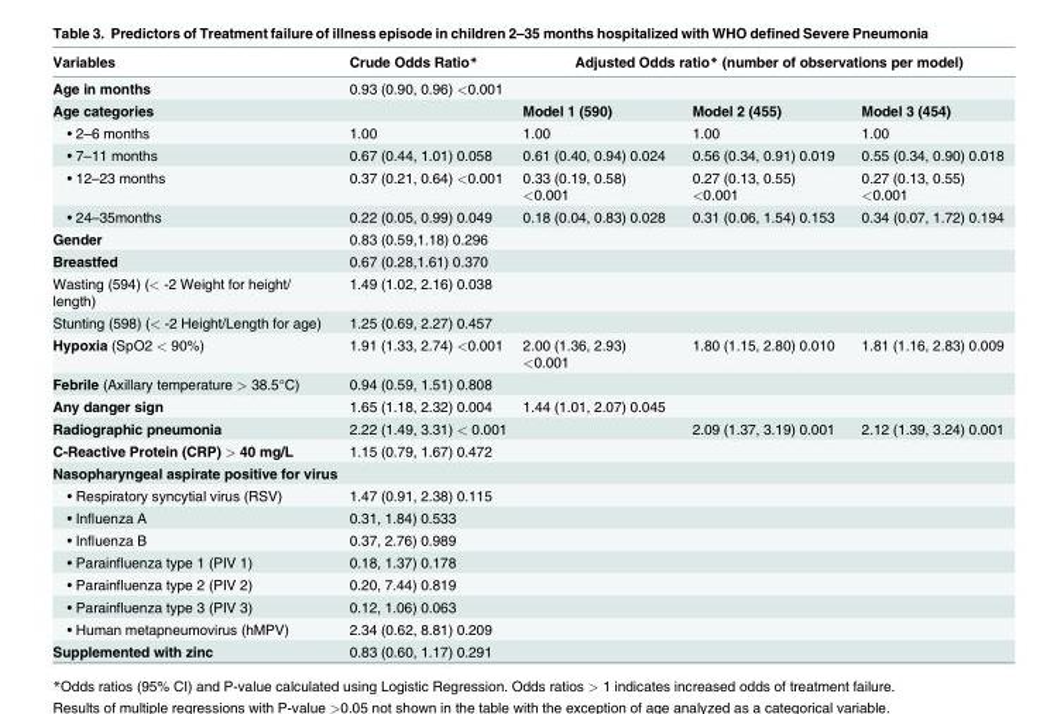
<table><thead><tr><td rowspan="3">Variables Age in months Age categories</td><td rowspan="3">Crude Odds Ratio* 0.93 (0.90, 0.96) &lt;0.001</td><td rowspan="2" colspan="3">Adjusted Odds ratio* (number of observations per model)</td></tr><tr></tr><tr><td>Model 1 (590)</td><td>Model 2 (455)</td><td>Model 3 (454)</td></tr></thead><tbody><tr><td>• 2–6 months</td><td>1.00</td><td>1.00</td><td>1.00</td><td>1.00</td></tr><tr><td>• 7–11 months</td><td>0.67 (0.44, 1.01) 0.058</td><td>0.61 (0.40, 0.94) 0.024</td><td>0.56 (0.34, 0.91) 0.019</td><td>0.55 (0.34, 0.90) 0.018</td></tr><tr><td>• 12–23 months</td><td>0.37 (0.21, 0.64) &lt;0.001</td><td>0.33 (0.19, 0.58) &lt;0.001</td><td>0.27 (0.13, 0.55) &lt;0.001</td><td>0.27 (0.13, 0.55) &lt;0.001</td></tr><tr><td>• 24–35months</td><td>0.22 (0.05, 0.99) 0.049</td><td>0.18 (0.04, 0.83) 0.028</td><td>0.31 (0.06, 1.54) 0.153</td><td>0.34 (0.07, 1.72) 0.194</td></tr><tr><td>Gender</td><td>0.83 (0.59,1.18) 0.296</td><td></td><td></td><td></td></tr><tr><td>Breastfed</td><td>0.67 (0.28,1.61) 0.370</td><td></td><td></td><td></td></tr><tr><td>Wasting (594) (&lt; -2 Weight for height/ length)</td><td>1.49 (1.02, 2.16) 0.038</td><td></td><td></td><td></td></tr><tr><td>Stunting (598) (&lt; -2 Height/Length for age)</td><td>1.25 (0.69, 2.27) 0.457</td><td></td><td></td><td></td></tr><tr><td>Hypoxia (SpO2 &lt; 90%)</td><td>1.91 (1.33, 2.74) &lt;0.001</td><td>2.00 (1.36, 2.93) &lt;0.001</td><td>1.80 (1.15, 2.80) 0.010</td><td>1.81 (1.16, 2.83) 0.009</td></tr><tr><td>Febrile (Axillary temperature &gt; 38.5°C)</td><td>0.94 (0.59, 1.51) 0.808</td><td></td><td></td><td></td></tr><tr><td>Any danger sign</td><td>1.65 (1.18, 2.32) 0.004</td><td>1.44 (1.01, 2.07) 0.045</td><td></td><td></td></tr><tr><td>Radiographic pneumonia</td><td>2.22 (1.49, 3.31) &lt; 0.001</td><td></td><td>2.09 (1.37, 3.19) 0.001</td><td>2.12 (1.39, 3.24) 0.001</td></tr><tr><td>C-Reactive Protein (CRP) &gt; 40 mg/L</td><td>1.15 (0.79, 1.67) 0.472</td><td></td><td></td><td></td></tr><tr><td colspan="5">Nasopharyngeal aspirate positive for virus</td></tr><tr><td>• Respiratory syncytial virus (RSV)</td><td>1.47 (0.91, 2.38) 0.115</td><td></td><td></td><td></td></tr><tr><td>• Influenza A</td><td>0.31, 1.84) 0.533</td><td></td><td></td><td></td></tr><tr><td>• Influenza B</td><td>0.37, 2.76) 0.989</td><td></td><td></td><td></td></tr><tr><td>• Parainfluenza type 1 (PIV 1)</td><td>0.18, 1.37) 0.178</td><td></td><td></td><td></td></tr><tr><td>• Parainfluenza type 2 (PIV 2)</td><td>0.20, 7.44) 0.819</td><td></td><td></td><td></td></tr><tr><td>• Parainfluenza type 3 (PIV 3)</td><td>0.12, 1.06) 0.063</td><td></td><td></td><td></td></tr><tr><td>• Human metapneumovirus (hMPV)</td><td>2.34 (0.62, 8.81) 0.209</td><td></td><td></td><td></td></tr><tr><td>Supplemented with zinc</td><td>0.83 (0.60, 1.17) 0.291</td><td></td><td></td><td></td></tr></tbody></table>